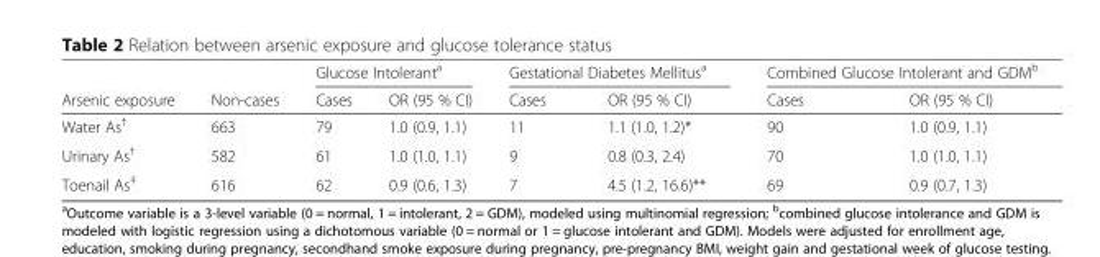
<table><thead><tr><td rowspan="2">Arsenic exposure</td><td rowspan="2">Non-cases</td><td colspan="2">Glucose Intolerant<sup>a</sup></td><td colspan="2">Gestational Diabetes Mellitus<sup>a</sup></td><td colspan="2">Combined Glucose Intolerant and GDM<sup>b</sup></td></tr><tr><td>Cases</td><td>OR (95 % CI)</td><td>Cases</td><td>OR (95 % CI)</td><td>Cases</td><td>OR (95 % CI)</td></tr></thead><tbody><tr><td>Water As<sup>†</sup></td><td>663</td><td>79</td><td>1.0 (0.9, 1.1)</td><td>11</td><td>1.1 (1.0, 1.2)*</td><td>90</td><td>1.0 (0.9, 1.1)</td></tr><tr><td>Urinary As<sup>†</sup></td><td>582</td><td>61</td><td>1.0 (1.0, 1.1)</td><td>9</td><td>0.8 (0.3, 2.4)</td><td>70</td><td>1.0 (1.0, 1.1)</td></tr><tr><td>Toenail As<sup>‡</sup></td><td>616</td><td>62</td><td>0.9 (0.6, 1.3)</td><td>7</td><td>4.5 (1.2, 16.6)**</td><td>69</td><td>0.9 (0.7, 1.3)</td></tr></tbody></table>